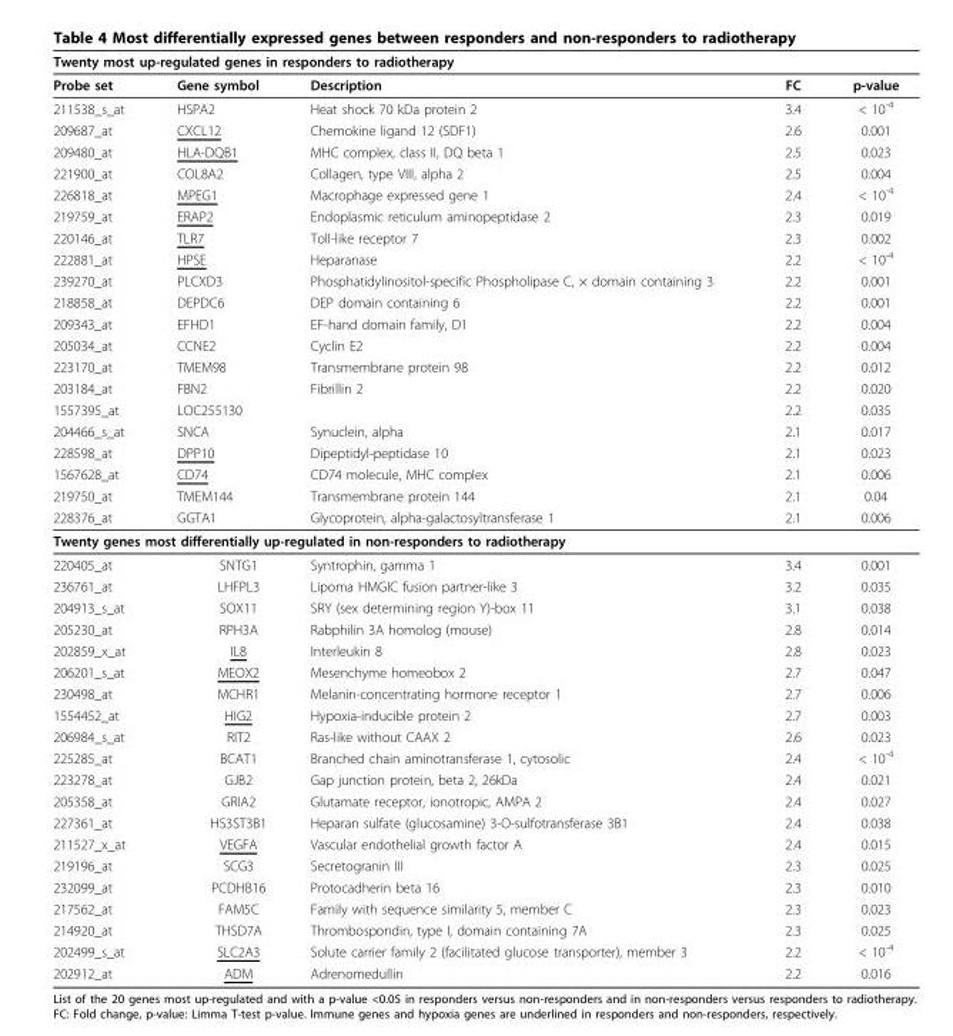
<table><thead><tr><td colspan="5">Twenty most up-regulated genes in responders to radiotherapy</td></tr><tr><td>Probe set</td><td>Gene symbol</td><td>Description</td><td>FC</td><td>p-value</td></tr></thead><tbody><tr><td>211538_s_at</td><td>HSPA2</td><td>Heat shock 70 kDa protein 2</td><td>3.4</td><td>&lt; 10<sup>-4</sup></td></tr><tr><td>209687_at</td><td>CXCL12</td><td>Chemokine ligand 12 (SDF1)</td><td>2.6</td><td>0.001</td></tr><tr><td>209480_at</td><td>HLA-DQB1</td><td>MHC complex, class II, DQ beta 1</td><td>2.5</td><td>0.023</td></tr><tr><td>221900_at</td><td>COL8A2</td><td>Collagen, type VIII, alpha 2</td><td>2.5</td><td>0.004</td></tr><tr><td>226818_at</td><td>MPEG1</td><td>Macrophage expressed gene 1</td><td>2.4</td><td>&lt; 10<sup>-4</sup></td></tr><tr><td>219759_at</td><td>ERAP2</td><td>Endoplasmic reticulum aminopeptidase 2</td><td>2.3</td><td>0.019</td></tr><tr><td>220146_at</td><td>TLR7</td><td>Toll-like receptor 7</td><td>2.3</td><td>0.002</td></tr><tr><td>222881_at</td><td>HPSE</td><td>Heparanase</td><td>2.2</td><td>&lt; 10<sup>-4</sup></td></tr><tr><td>239270_at</td><td>PLCXD3</td><td>Phosphatidylinositol-specific Phospholipase C, × domain containing 3</td><td>2.2</td><td>0.001</td></tr><tr><td>218858_at</td><td>DEPDC6</td><td>DEP domain containing 6</td><td>2.2</td><td>0.001</td></tr><tr><td>209343_at</td><td>EFHD1</td><td>EF-hand domain family, D1</td><td>2.2</td><td>0.004</td></tr><tr><td>205034_at</td><td>CCNE2</td><td>Cyclin E2</td><td>2.2</td><td>0.004</td></tr><tr><td>223170_at</td><td>TMEM98</td><td>Transmembrane protein 98</td><td>2.2</td><td>0.012</td></tr><tr><td>203184_at</td><td>FBN2</td><td>Fibrillin 2</td><td>2.2</td><td>0.020</td></tr><tr><td>1557395_at</td><td>LOC255130</td><td></td><td>2.2</td><td>0.035</td></tr><tr><td>204466_s_at</td><td>SNCA</td><td>Synuclein, alpha</td><td>2.1</td><td>0.017</td></tr><tr><td>228598_at</td><td>DPP10</td><td>Dipeptidyl-peptidase 10</td><td>2.1</td><td>0.023</td></tr><tr><td>1567628_at</td><td>CD74</td><td>CD74 molecule, MHC complex</td><td>2.1</td><td>0.006</td></tr><tr><td>219750_at</td><td>TMEM144</td><td>Transmembrane protein 144</td><td>2.1</td><td>0.04</td></tr><tr><td>228376_at</td><td>GGTA1</td><td>Glycoprotein, alpha-galactosyltransferase 1</td><td>2.1</td><td>0.006</td></tr><tr><td colspan="5">Twenty genes most differentially up-regulated in non-responders to radiotherapy</td></tr><tr><td>220405_at</td><td>SNTG1</td><td>Syntrophin, gamma 1</td><td>3.4</td><td>0.001</td></tr><tr><td>236761_at</td><td>LHFPL3</td><td>Lipoma HMGIC fusion partner-like 3</td><td>3.2</td><td>0.035</td></tr><tr><td>204913_s_at</td><td>SOX11</td><td>SRY (sex determining region Y)-box 11</td><td>3.1</td><td>0.038</td></tr><tr><td>205230_at</td><td>RPH3A</td><td>Rabphilin 3A homolog (mouse)</td><td>2.8</td><td>0.014</td></tr><tr><td>202859_x_at</td><td>IL8</td><td>Interleukin 8</td><td>2.8</td><td>0.023</td></tr><tr><td>206201_s_at</td><td>MEOX2</td><td>Mesenchyme homeobox 2</td><td>2.7</td><td>0.047</td></tr><tr><td>230498_at</td><td>MCHR1</td><td>Melanin-concentrating hormone receptor 1</td><td>2.7</td><td>0.006</td></tr><tr><td>1554452_at</td><td>HIG2</td><td>Hypoxia-inducible protein 2</td><td>2.7</td><td>0.003</td></tr><tr><td>206984_s_at</td><td>RIT2</td><td>Ras-like without CAAX 2</td><td>2.6</td><td>0.023</td></tr><tr><td>225285_at</td><td>BCAT1</td><td>Branched chain aminotransferase 1, cytosolic</td><td>2.4</td><td>&lt; 10<sup>-4</sup></td></tr><tr><td>223278_at</td><td>GJB2</td><td>Gap junction protein, beta 2, 26kDa</td><td>2.4</td><td>0.021</td></tr><tr><td>205358_at</td><td>GRIA2</td><td>Glutamate receptor, ionotropic, AMPA 2</td><td>2.4</td><td>0.027</td></tr><tr><td>227361_at</td><td>HS3ST3B1</td><td>Heparan sulfate (glucosamine) 3-O-sulfotransferase 3B1</td><td>2.4</td><td>0.038</td></tr><tr><td>211527_x_at</td><td>VEGFA</td><td>Vascular endothelial growth factor A</td><td>2.4</td><td>0.015</td></tr><tr><td>219196_at</td><td>SCG3</td><td>Secretogranin III</td><td>2.3</td><td>0.025</td></tr><tr><td>232099_at</td><td>PCDHB16</td><td>Protocadherin beta 16</td><td>2.3</td><td>0.010</td></tr><tr><td>217562_at</td><td>FAM5C</td><td>Family with sequence similarity 5, member C</td><td>2.3</td><td>0.023</td></tr><tr><td>214920_at</td><td>THSD7A</td><td>Thrombospondin, type I, domain containing 7A</td><td>2.3</td><td>0.025</td></tr><tr><td>202499_s_at</td><td>SLC2A3</td><td>Solute carrier family 2 (facilitated glucose transporter), member 3</td><td>2.2</td><td>&lt; 10<sup>-4</sup></td></tr><tr><td>202912_at</td><td>ADM</td><td>Adrenomedullin</td><td>2.2</td><td>0.016</td></tr></tbody></table>